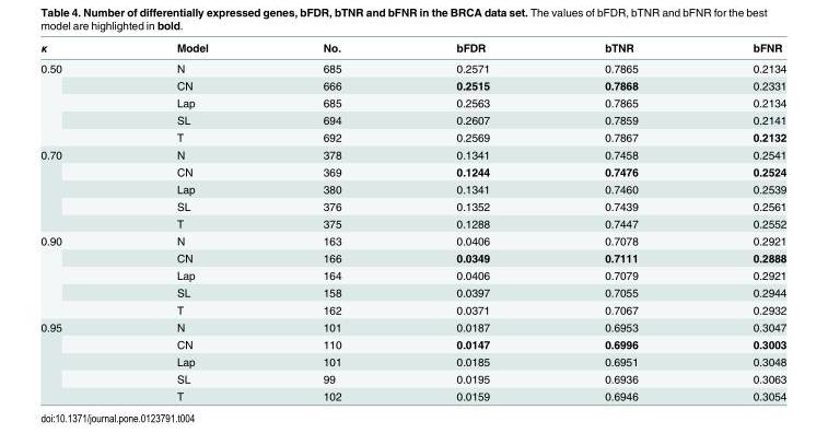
<table><thead><tr><td>κ</td><td>Model</td><td>No.</td><td>bFDR</td><td>bTNR</td><td>bFNR</td></tr></thead><tbody><tr><td rowspan="5">0.50</td><td>N</td><td>685</td><td>0.2571</td><td>0.7865</td><td>0.2134</td></tr><tr><td>CN</td><td>666</td><td>0.2515</td><td>0.7868</td><td>0.2331</td></tr><tr><td>Lap</td><td>685</td><td>0.2563</td><td>0.7865</td><td>0.2134</td></tr><tr><td>SL</td><td>694</td><td>0.2607</td><td>0.7859</td><td>0.2141</td></tr><tr><td>T</td><td>692</td><td>0.2569</td><td>0.7867</td><td>0.2132</td></tr><tr><td rowspan="5">0.70</td><td>N</td><td>378</td><td>0.1341</td><td>0.7458</td><td>0.2541</td></tr><tr><td>CN</td><td>369</td><td>0.1244</td><td>0.7476</td><td>0.2524</td></tr><tr><td>Lap</td><td>380</td><td>0.1341</td><td>0.7460</td><td>0.2539</td></tr><tr><td>SL</td><td>376</td><td>0.1352</td><td>0.7439</td><td>0.2561</td></tr><tr><td>T</td><td>375</td><td>0.1288</td><td>0.7447</td><td>0.2552</td></tr><tr><td rowspan="5">0.90</td><td>N</td><td>163</td><td>0.0406</td><td>0.7078</td><td>0.2921</td></tr><tr><td>CN</td><td>166</td><td>0.0349</td><td>0.7111</td><td>0.2888</td></tr><tr><td>Lap</td><td>164</td><td>0.0406</td><td>0.7079</td><td>0.2921</td></tr><tr><td>SL</td><td>158</td><td>0.0397</td><td>0.7055</td><td>0.2944</td></tr><tr><td>T</td><td>162</td><td>0.0371</td><td>0.7067</td><td>0.2932</td></tr><tr><td rowspan="5">0.95</td><td>N</td><td>101</td><td>0.0187</td><td>0.6953</td><td>0.3047</td></tr><tr><td>CN</td><td>110</td><td>0.0147</td><td>0.6996</td><td>0.3003</td></tr><tr><td>Lap</td><td>101</td><td>0.0185</td><td>0.6951</td><td>0.3048</td></tr><tr><td>SL</td><td>99</td><td>0.0195</td><td>0.6936</td><td>0.3063</td></tr><tr><td>T</td><td>102</td><td>0.0159</td><td>0.6946</td><td>0.3054</td></tr></tbody></table>